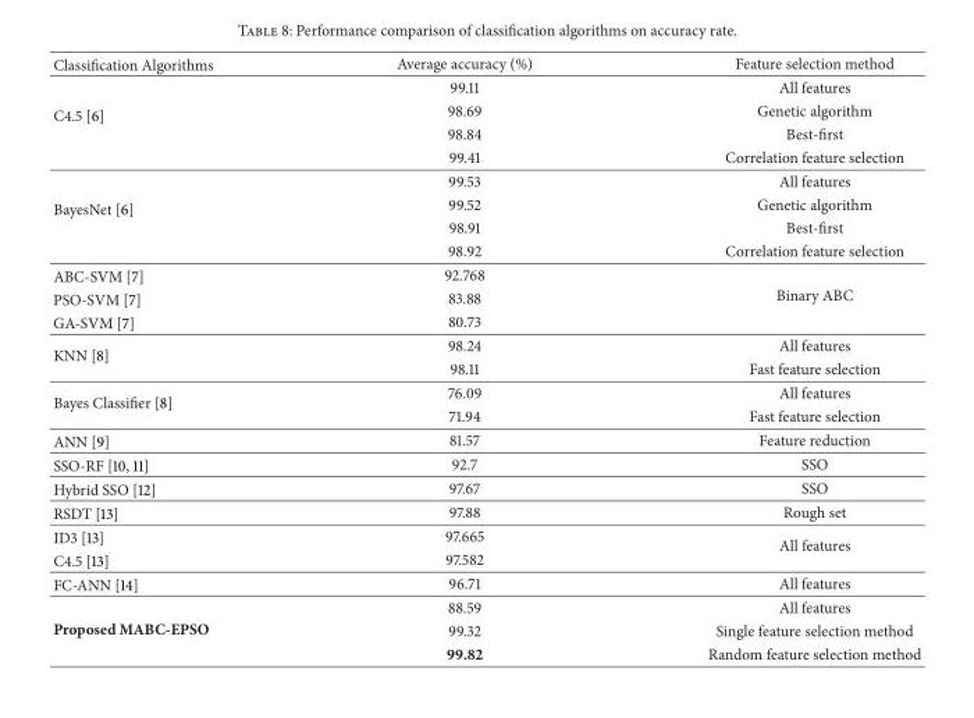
<table><thead><tr><td>Classification Algorithms</td><td>Average accuracy (%)</td><td>Feature selection method</td></tr></thead><tbody><tr><td rowspan="4">C4.5 [6]</td><td>99.11</td><td>All features</td></tr><tr><td>98.69</td><td>Genetic algorithm</td></tr><tr><td>98.84</td><td>Best-first</td></tr><tr><td>99.41</td><td>Correlation feature selection</td></tr><tr><td rowspan="4">BayesNet [6]</td><td>99.53</td><td>All features</td></tr><tr><td>99.52</td><td>Genetic algorithm</td></tr><tr><td>98.91</td><td>Best-first</td></tr><tr><td>98.92</td><td>Correlation feature selection</td></tr><tr><td>ABC-SVM [7]</td><td>92.768</td><td rowspan="3">Binary ABC</td></tr><tr><td>PSO-SVM [7]</td><td>83.88</td></tr><tr><td>GA-SVM [7]</td><td>80.73</td></tr><tr><td rowspan="2">KNN [8]</td><td>98.24</td><td>All features</td></tr><tr><td>98.11</td><td>Fast feature selection</td></tr><tr><td rowspan="2">Bayes Classifier [8]</td><td>76.09</td><td>All features</td></tr><tr><td>71.94</td><td>Fast feature selection</td></tr><tr><td>ANN [9]</td><td>81.57</td><td>Feature reduction</td></tr><tr><td>SSO-RF [10, 11]</td><td>92.7</td><td>SSO</td></tr><tr><td>Hybrid SSO [12]</td><td>97.67</td><td>SSO</td></tr><tr><td>RSDT [13]</td><td>97.88</td><td>Rough set</td></tr><tr><td>ID3 [13]</td><td>97.665</td><td rowspan="2">All features</td></tr><tr><td>C4.5 [13]</td><td>97.582</td></tr><tr><td>FC-ANN [14]</td><td>96.71</td><td>All features</td></tr><tr><td rowspan="3">Proposed MABC-EPSO</td><td>88.59</td><td>All features</td></tr><tr><td>99.32</td><td>Single feature selection method</td></tr><tr><td>99.82</td><td>Random feature selection method</td></tr></tbody></table>